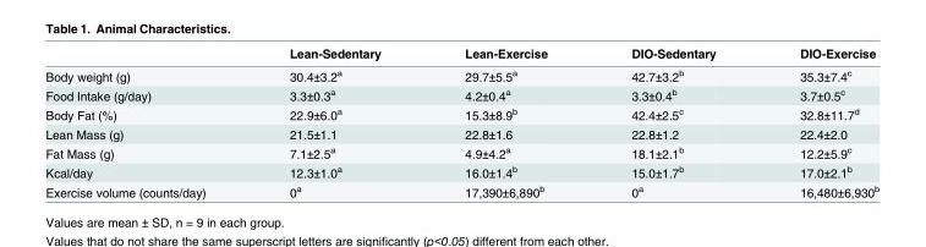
<table><thead><tr><td></td><td>Lean-Sedentary</td><td>Lean-Exercise</td><td>DIO-Sedentary</td><td>DIO-Exercise</td></tr></thead><tbody><tr><td>Body weight (g)</td><td>30.4±3.2<sup>a</sup></td><td>29.7±5.5<sup>a</sup></td><td>42.7±3.2<sup>b</sup></td><td>35.3±7.4<sup>c</sup></td></tr><tr><td>Food Intake (g/day)</td><td>3.3±0.3<sup>a</sup></td><td>4.2±0.4<sup>a</sup></td><td>3.3±0.4<sup>b</sup></td><td>3.7±0.5<sup>c</sup></td></tr><tr><td>Body Fat (%)</td><td>22.9±6.0<sup>a</sup></td><td>15.3±8.9<sup>b</sup></td><td>42.4±2.5<sup>c</sup></td><td>32.8±11.7<sup>d</sup></td></tr><tr><td>Lean Mass (g)</td><td>21.5±1.1</td><td>22.8±1.6</td><td>22.8±1.2</td><td>22.4±2.0</td></tr><tr><td>Fat Mass (g)</td><td>7.1±2.5<sup>a</sup></td><td>4.9±4.2<sup>a</sup></td><td>18.1±2.1<sup>b</sup></td><td>12.2±5.9<sup>c</sup></td></tr><tr><td>Kcal/day</td><td>12.3±1.0<sup>a</sup></td><td>16.0±1.4<sup>b</sup></td><td>15.0±1.7<sup>b</sup></td><td>17.0±2.1<sup>b</sup></td></tr><tr><td>Exercise volume (counts/day)</td><td>0<sup>a</sup></td><td>17,390±6,890<sup>b</sup></td><td>0<sup>a</sup></td><td>16,480±6,930<sup>b</sup></td></tr></tbody></table>